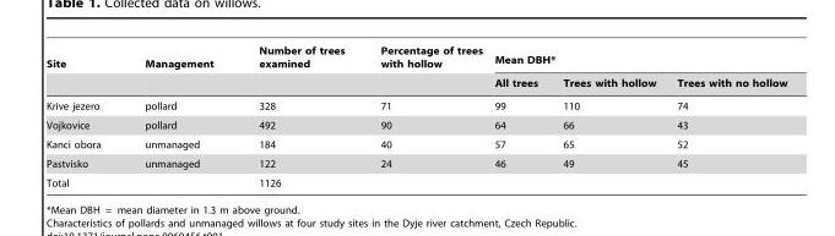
<table><thead><tr><td rowspan="2">Site</td><td rowspan="2">Management</td><td rowspan="2">Number of trees examined</td><td rowspan="2">Percentage of trees with hollow</td><td colspan="3">Mean DBH*</td></tr><tr><td>All trees</td><td>Trees with hollow</td><td>Trees with no hollow</td></tr></thead><tbody><tr><td>Krive jezero</td><td>pollard</td><td>328</td><td>71</td><td>99</td><td>110</td><td>74</td></tr><tr><td>Vojkovice</td><td>pollard</td><td>492</td><td>90</td><td>64</td><td>66</td><td>43</td></tr><tr><td>Kanci obora</td><td>unmanaged</td><td>184</td><td>40</td><td>57</td><td>65</td><td>52</td></tr><tr><td>Pastvisko</td><td>unmanaged</td><td>122</td><td>24</td><td>46</td><td>49</td><td>45</td></tr><tr><td>Total</td><td></td><td>1126</td><td></td><td></td><td></td><td></td></tr></tbody></table>